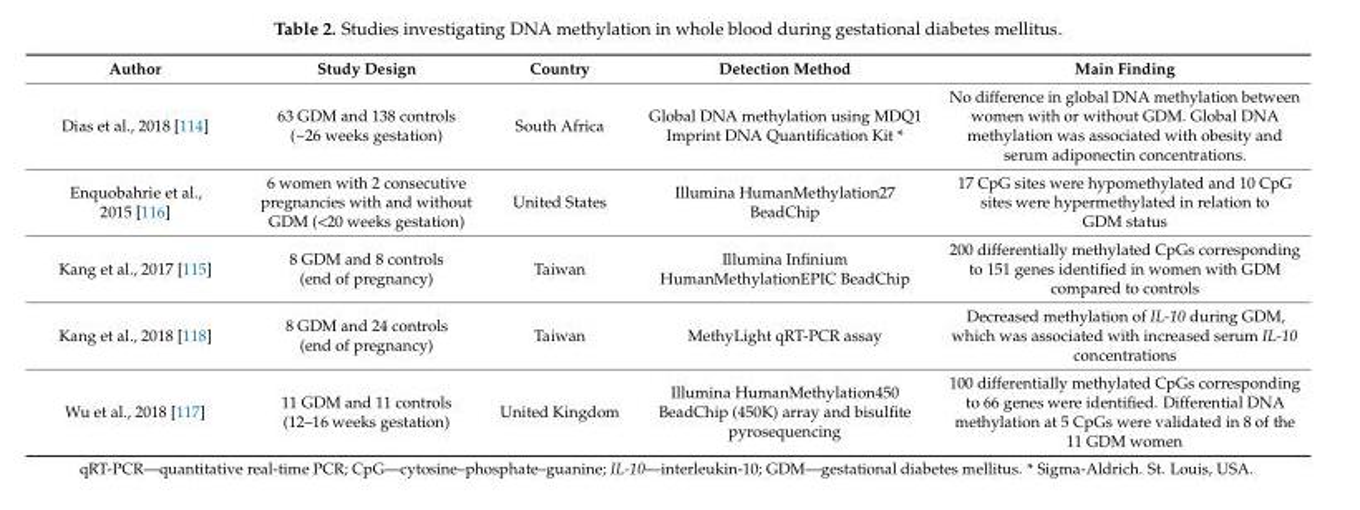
<table><thead><tr><td>Author</td><td>Study Design</td><td>Country</td><td>Detection Method</td><td>Main Finding</td></tr></thead><tbody><tr><td>Dias et al., 2018 [114]</td><td>63 GDM and 138 controls (~26 weeks gestation)</td><td>South Africa</td><td>Global DNA methylation using MDQ1 Imprint DNA Quantification Kit *</td><td>No difference in global DNA methylation between women with or without GDM. Global DNA methylation was associated with obesity and serum adiponectin concentrations.</td></tr><tr><td>Enquobahrie et al., 2015 [116]</td><td>6 women with 2 consecutive pregnancies with and without GDM (&lt;20 weeks gestation)</td><td>United States</td><td>Illumina HumanMethylation27 BeadChip</td><td>17 CpG sites were hypomethylated and 10 CpG sites were hypermethylated in relation to GDM status</td></tr><tr><td>Kang et al., 2017 [115]</td><td>8 GDM and 8 controls (end of pregnancy)</td><td>Taiwan</td><td>Illumina Infinium HumanMethylationEPIC BeadChip</td><td>200 differentially methylated CpGs corresponding to 151 genes identified in women with GDM compared to controls</td></tr><tr><td>Kang et al., 2018 [118]</td><td>8 GDM and 24 controls (end of pregnancy)</td><td>Taiwan</td><td>MethyLight qRT-PCR assay</td><td>Decreased methylation of IL-10 during GDM, which was associated with increased serum IL-10 concentrations</td></tr><tr><td>Wu et al., 2018 [117]</td><td>11 GDM and 11 controls (12–16 weeks gestation)</td><td>United Kingdom</td><td>Illumina HumanMethylation450 BeadChip (450K) array and bisulfite pyrosequencing</td><td>100 differentially methylated CpGs corresponding to 66 genes were identified. Differential DNA methylation at 5 CpGs were validated in 8 of the 11 GDM women</td></tr></tbody></table>